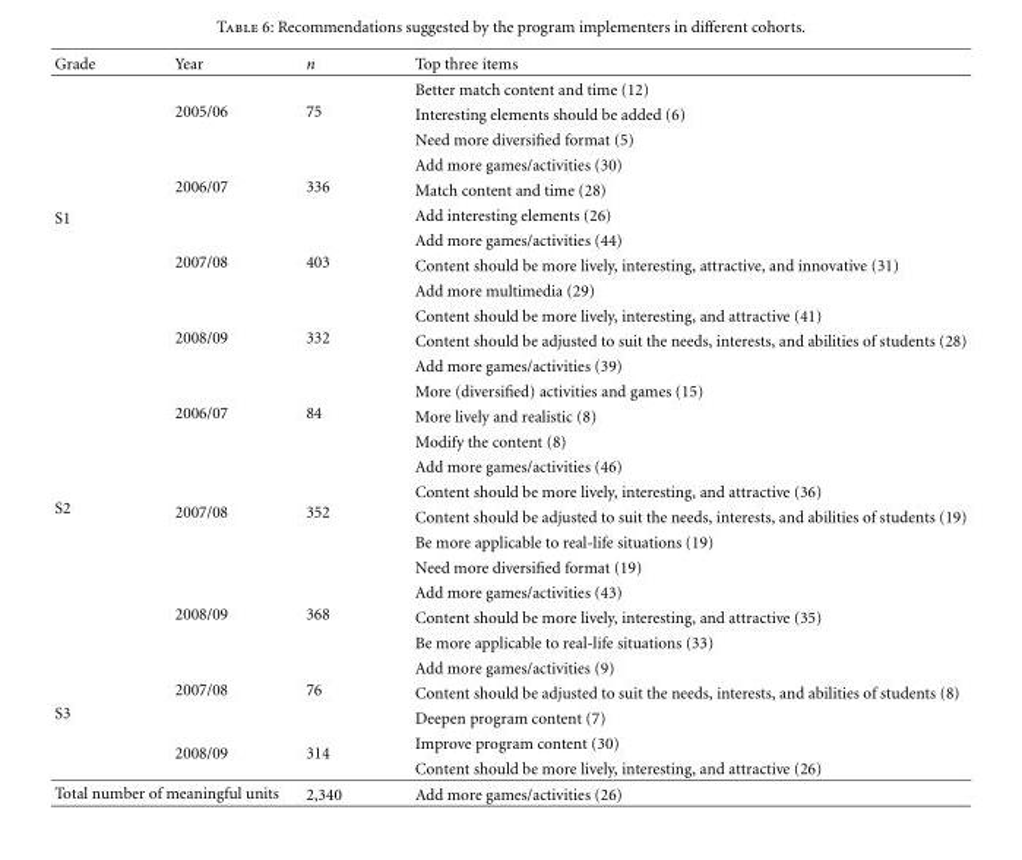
<table><thead><tr><td>Grade</td><td>Year</td><td>n</td><td>Top three items</td></tr></thead><tbody><tr><td rowspan="12">S1</td><td rowspan="3">2005/06</td><td rowspan="3">75</td><td>Better match content and time (12)</td></tr><tr><td>Interesting elements should be added (6)</td></tr><tr><td>Need more diversified format (5)</td></tr><tr><td rowspan="3">2006/07</td><td rowspan="3">336</td><td>Add more games/activities (30)</td></tr><tr><td>Match content and time (28)</td></tr><tr><td>Add interesting elements (26)</td></tr><tr><td rowspan="3">2007/08</td><td rowspan="3">403</td><td>Add more games/activities (44)</td></tr><tr><td>Content should be more lively, interesting, attractive, and innovative (31)</td></tr><tr><td>Add more multimedia (29)</td></tr><tr><td rowspan="3">2008/09</td><td rowspan="3">332</td><td>Content should be more lively, interesting, and attractive (41)</td></tr><tr><td>Content should be adjusted to suit the needs, interests, and abilities of students (28)</td></tr><tr><td>Add more games/activities (39)</td></tr><tr><td rowspan="11">S2</td><td rowspan="3">2006/07</td><td rowspan="3">84</td><td>More (diversified) activities and games (15)</td></tr><tr><td>More lively and realistic (8)</td></tr><tr><td>Modify the content (8)</td></tr><tr><td rowspan="5">2007/08</td><td rowspan="5">352</td><td>Add more games/activities (46)</td></tr><tr><td>Content should be more lively, interesting, and attractive (36)</td></tr><tr><td>Content should be adjusted to suit the needs, interests, and abilities of students (19)</td></tr><tr><td>Be more applicable to real-life situations (19)</td></tr><tr><td>Need more diversified format (19)</td></tr><tr><td rowspan="3">2008/09</td><td rowspan="3">368</td><td>Add more games/activities (43)</td></tr><tr><td>Content should be more lively, interesting, and attractive (35)</td></tr><tr><td>Be more applicable to real-life situations (33)</td></tr><tr><td rowspan="5">S3</td><td rowspan="3">2007/08</td><td rowspan="3">76</td><td>Add more games/activities (9)</td></tr><tr><td>Content should be adjusted to suit the needs, interests, and abilities of students (8)</td></tr><tr><td>Deepen program content (7)</td></tr><tr><td rowspan="2">2008/09</td><td rowspan="2">314</td><td>Improve program content (30)</td></tr><tr><td>Content should be more lively, interesting, and attractive (26)</td></tr><tr><td colspan="2">Total number of meaningful units</td><td>2,340</td><td>Add more games/activities (26)</td></tr></tbody></table>